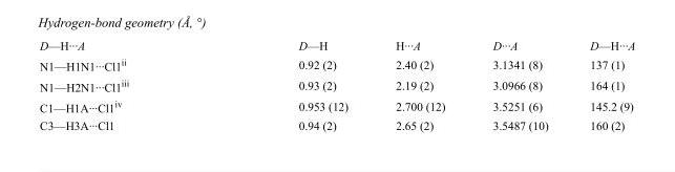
<table><tbody><tr><td>D—H···A</td><td>D—H</td><td>H···A</td><td>D···A</td><td>D—H···A</td></tr><tr><td>N1—H1N1···Cl1<sup>ii</sup></td><td>0.92 (2)</td><td>2.40 (2)</td><td>3.1341 (8)</td><td>137 (1)</td></tr><tr><td>N1—H2N1···Cl1<sup>iii</sup></td><td>0.93 (2)</td><td>2.19 (2)</td><td>3.0966 (8)</td><td>164 (1)</td></tr><tr><td>C1—H1A···Cl1<sup>iv</sup></td><td>0.953 (12)</td><td>2.700 (12)</td><td>3.5251 (6)</td><td>145.2 (9)</td></tr><tr><td>C3—H3A···Cl1</td><td>0.94 (2)</td><td>2.65 (2)</td><td>3.5487 (10)</td><td>160 (2)</td></tr></tbody></table>